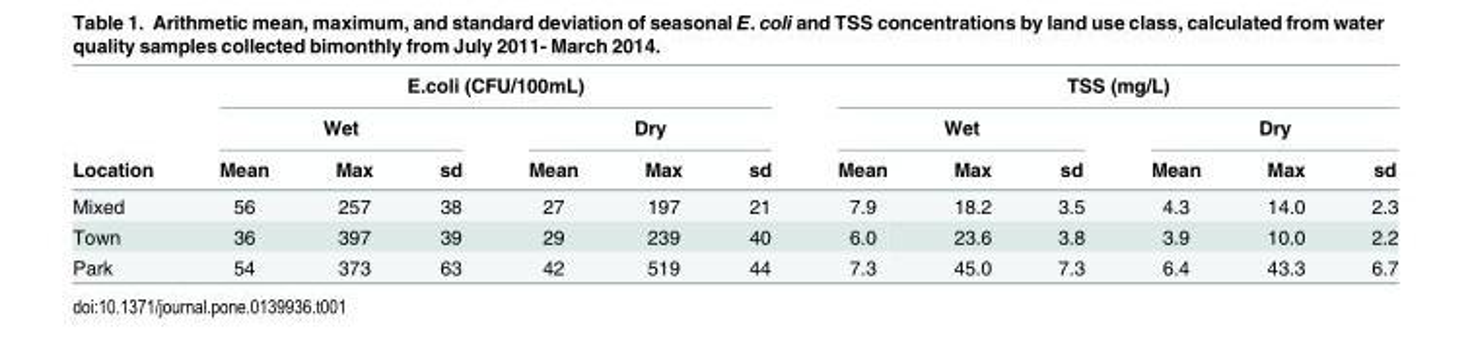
<table><thead><tr><td rowspan="3">Location</td><td colspan="6">E.coli (CFU/100mL)</td><td colspan="6">TSS (mg/L)</td></tr><tr><td colspan="3">Wet</td><td colspan="3">Dry</td><td colspan="3">Wet</td><td colspan="3">Dry</td></tr><tr><td>Mean</td><td>Max</td><td>sd</td><td>Mean</td><td>Max</td><td>sd</td><td>Mean</td><td>Max</td><td>sd</td><td>Mean</td><td>Max</td><td>sd</td></tr></thead><tbody><tr><td>Mixed</td><td>56</td><td>257</td><td>38</td><td>27</td><td>197</td><td>21</td><td>7.9</td><td>18.2</td><td>3.5</td><td>4.3</td><td>14.0</td><td>2.3</td></tr><tr><td>Town</td><td>36</td><td>397</td><td>39</td><td>29</td><td>239</td><td>40</td><td>6.0</td><td>23.6</td><td>3.8</td><td>3.9</td><td>10.0</td><td>2.2</td></tr><tr><td>Park</td><td>54</td><td>373</td><td>63</td><td>42</td><td>519</td><td>44</td><td>7.3</td><td>45.0</td><td>7.3</td><td>6.4</td><td>43.3</td><td>6.7</td></tr></tbody></table>